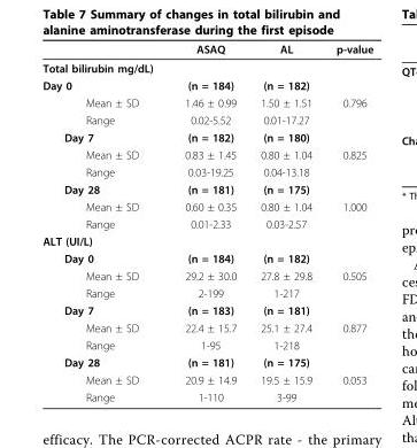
<table><thead><tr><td></td><td>ASAQ</td><td>AL</td><td>p-value</td></tr></thead><tbody><tr><td colspan="4">Total bilirubin mg/dL)</td></tr><tr><td>Day 0</td><td>(n = 184)</td><td>(n = 182)</td><td></td></tr><tr><td>Mean ± SD</td><td>1.46 ± 0.99</td><td>1.50 ± 1.51</td><td>0.796</td></tr><tr><td>Range</td><td>0.02-5.52</td><td>0.01-17.27</td><td></td></tr><tr><td>Day 7</td><td>(n = 182)</td><td>(n = 180)</td><td></td></tr><tr><td>Mean ± SD</td><td>0.83 ± 1.45</td><td>0.80 ± 1.04</td><td>0.825</td></tr><tr><td>Range</td><td>0.03-19.25</td><td>0.04-13.18</td><td></td></tr><tr><td>Day 28</td><td>(n = 181)</td><td>(n = 175)</td><td></td></tr><tr><td>Mean ± SD</td><td>0.60 ± 0.35</td><td>0.80 ± 1.04</td><td>1.000</td></tr><tr><td>Range</td><td>0.01-2.33</td><td>0.03-2.57</td><td></td></tr><tr><td colspan="4">ALT (UI/L)</td></tr><tr><td>Day 0</td><td>(n = 184)</td><td>(n = 182)</td><td></td></tr><tr><td>Mean ± SD</td><td>29.2 ± 30.0</td><td>27.8 ± 29.8</td><td>0.505</td></tr><tr><td>Range</td><td>2-199</td><td>1-217</td><td></td></tr><tr><td>Day 7</td><td>(n = 183)</td><td>(n = 181)</td><td></td></tr><tr><td>Mean ± SD</td><td>22.4 ± 15.7</td><td>25.1 ± 27.4</td><td>0.877</td></tr><tr><td>Range</td><td>1-95</td><td>1-218</td><td></td></tr><tr><td>Day 28</td><td>(n = 181)</td><td>(n = 175)</td><td></td></tr><tr><td>Mean ± SD</td><td>20.9 ± 14.9</td><td>19.5 ± 15.9</td><td>0.053</td></tr><tr><td>Range</td><td>1-110</td><td>3-99</td><td></td></tr></tbody></table>